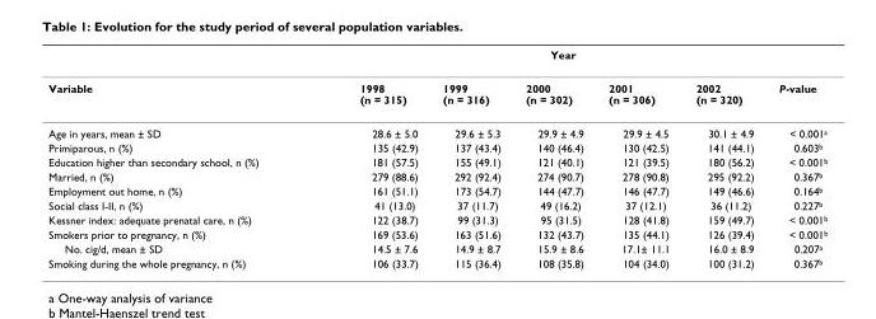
<table><thead><tr><td rowspan="2">Variable</td><td colspan="5">Year</td><td rowspan="2">P-value</td></tr><tr><td>1998 (n = 315)</td><td>1999 (n = 316)</td><td>2000 (n = 302)</td><td>2001 (n = 306)</td><td>2002 (n = 320)</td></tr></thead><tbody><tr><td>Age in years, mean ± SD</td><td>28.6 ± 5.0</td><td>29.6 ± 5.3</td><td>29.9 ± 4.9</td><td>29.9 ± 4.5</td><td>30.1 ± 4.9</td><td>&lt; 0.001<sup>a</sup></td></tr><tr><td>Primiparous, n (%)</td><td>135 (42.9)</td><td>137 (43.4)</td><td>140 (46.4)</td><td>130 (42.5)</td><td>141 (44.1)</td><td>0.603<sup>b</sup></td></tr><tr><td>Education higher than secondary school, n (%)</td><td>181 (57.5)</td><td>155 (49.1)</td><td>121 (40.1)</td><td>121 (39.5)</td><td>180 (56.2)</td><td>&lt; 0.001<sup>b</sup></td></tr><tr><td>Married, n (%)</td><td>279 (88.6)</td><td>292 (92.4)</td><td>274 (90.7)</td><td>278 (90.8)</td><td>295 (92.2)</td><td>0.367<sup>b</sup></td></tr><tr><td>Employment out home, n (%)</td><td>161 (51.1)</td><td>173 (54.7)</td><td>144 (47.7)</td><td>146 (47.7)</td><td>149 (46.6)</td><td>0.164<sup>b</sup></td></tr><tr><td>Social class I-II, n (%)</td><td>41 (13.0)</td><td>37 (11.7)</td><td>49 (16.2)</td><td>37 (12.1)</td><td>36 (11.2)</td><td>0.227<sup>b</sup></td></tr><tr><td>Kessner index: adequate prenatal care, n (%)</td><td>122 (38.7)</td><td>99 (31.3)</td><td>95 (31.5)</td><td>128 (41.8)</td><td>159 (49.7)</td><td>&lt; 0.001<sup>b</sup></td></tr><tr><td>Smokers prior to pregnancy, n (%)</td><td>169 (53.6)</td><td>163 (51.6)</td><td>132 (43.7)</td><td>135 (44.1)</td><td>126 (39.4)</td><td>&lt; 0.001<sup>b</sup></td></tr><tr><td>No. cig/d, mean ± SD</td><td>14.5 ± 7.6</td><td>14.9 ± 8.7</td><td>15.9 ± 8.6</td><td>17.1± 11.1</td><td>16.0 ± 8.9</td><td>0.207<sup>a</sup></td></tr><tr><td>Smoking during the whole pregnancy, n (%)</td><td>106 (33.7)</td><td>115 (36.4)</td><td>108 (35.8)</td><td>104 (34.0)</td><td>100 (31.2)</td><td>0.367<sup>b</sup></td></tr></tbody></table>